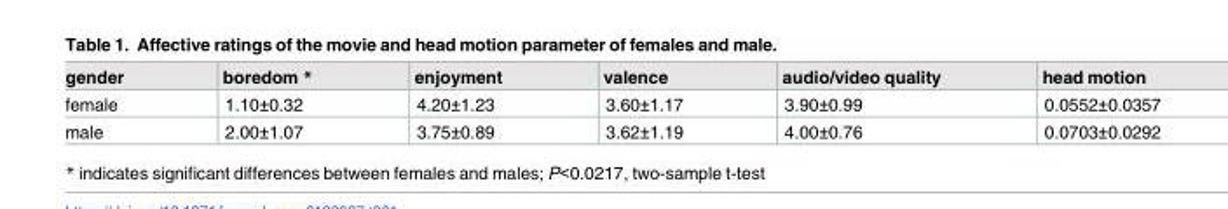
<table><thead><tr><td>gender</td><td>boredom *</td><td>enjoyment</td><td>valence</td><td>audio/video quality</td><td>head motion</td></tr></thead><tbody><tr><td>female</td><td>1.10±0.32</td><td>4.20±1.23</td><td>3.60±1.17</td><td>3.90±0.99</td><td>0.0552±0.0357</td></tr><tr><td>male</td><td>2.00±1.07</td><td>3.75±0.89</td><td>3.62±1.19</td><td>4.00±0.76</td><td>0.0703±0.0292</td></tr></tbody></table>